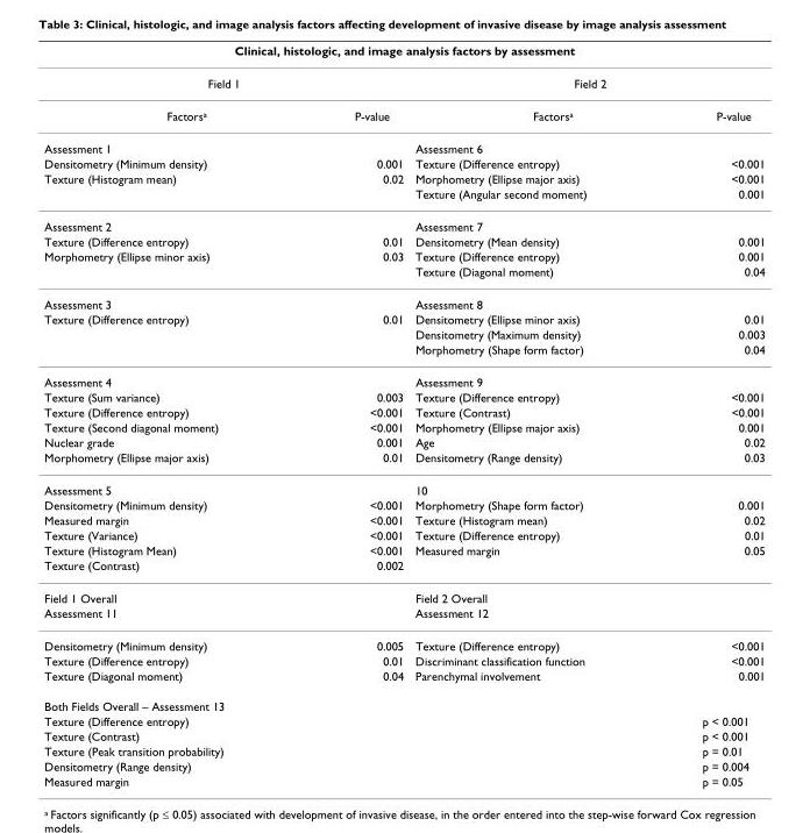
<table><thead><tr><td colspan="4">Clinical, histologic, and image analysis factors by assessment</td></tr><tr><td colspan="2">Field 1</td><td colspan="2">Field 2</td></tr><tr><td>Factors<sup>a</sup></td><td>P-value</td><td>Factors<sup>a</sup></td><td>P-value</td></tr></thead><tbody><tr><td>Assessment 1</td><td></td><td>Assessment 6</td><td></td></tr><tr><td>Densitometry (Minimum density)</td><td>0.001</td><td>Texture (Difference entropy)</td><td>&lt;0.001</td></tr><tr><td rowspan="2">Texture (Histogram mean)</td><td>0.02</td><td>Morphometry (Ellipse major axis)</td><td>&lt;0.001</td></tr><tr><td></td><td>Texture (Angular second moment)</td><td>0.001</td></tr><tr><td>Assessment 2</td><td></td><td>Assessment 7</td><td></td></tr><tr><td>Texture (Difference entropy)</td><td>0.01</td><td>Densitometry (Mean density)</td><td>0.001</td></tr><tr><td rowspan="2">Morphometry (Ellipse minor axis)</td><td>0.03</td><td>Texture (Difference entropy)</td><td>0.001</td></tr><tr><td></td><td>Texture (Diagonal moment)</td><td>0.04</td></tr><tr><td>Assessment 3</td><td></td><td>Assessment 8</td><td></td></tr><tr><td rowspan="3">Texture (Difference entropy)</td><td>0.01</td><td>Densitometry (Ellipse minor axis)</td><td>0.01</td></tr><tr><td></td><td>Densitometry (Maximum density)</td><td>0.003</td></tr><tr><td></td><td>Morphometry (Shape form factor)</td><td>0.04</td></tr><tr><td>Assessment 4</td><td></td><td>Assessment 9</td><td></td></tr><tr><td>Texture (Sum variance)</td><td>0.003</td><td>Texture (Difference entropy)</td><td>&lt;0.001</td></tr><tr><td>Texture (Difference entropy)</td><td>&lt;0.001</td><td>Texture (Contrast)</td><td>&lt;0.001</td></tr><tr><td>Texture (Second diagonal moment)</td><td>&lt;0.001</td><td>Morphometry (Ellipse major axis)</td><td>0.001</td></tr><tr><td>Nuclear grade</td><td>0.001</td><td>Age</td><td>0.02</td></tr><tr><td>Morphometry (Ellipse major axis)</td><td>0.01</td><td>Densitometry (Range density)</td><td>0.03</td></tr><tr><td>Assessment 5</td><td></td><td>10</td><td></td></tr><tr><td>Densitometry (Minimum density)</td><td>&lt;0.001</td><td>Morphometry (Shape form factor)</td><td>0.001</td></tr><tr><td>Measured margin</td><td>&lt;0.001</td><td>Texture (Histogram mean)</td><td>0.02</td></tr><tr><td>Texture (Variance)</td><td>&lt;0.001</td><td>Texture (Difference entropy)</td><td>0.01</td></tr><tr><td>Texture (Histogram Mean)</td><td>&lt;0.001</td><td>Measured margin</td><td>0.05</td></tr><tr><td>Texture (Contrast)</td><td>0.002</td><td></td><td></td></tr><tr><td>Field 1 Overall</td><td></td><td>Field 2 Overall</td><td></td></tr><tr><td>Assessment 11</td><td></td><td>Assessment 12</td><td></td></tr><tr><td>Densitometry (Minimum density)</td><td>0.005</td><td>Texture (Difference entropy)</td><td>&lt;0.001</td></tr><tr><td>Texture (Difference entropy)</td><td>0.01</td><td>Discriminant classification function</td><td>&lt;0.001</td></tr><tr><td>Texture (Diagonal moment)</td><td>0.04</td><td>Parenchymal involvement</td><td>0.001</td></tr><tr><td colspan="4">Both Fields Overall – Assessment 13</td></tr><tr><td>Texture (Difference entropy)</td><td></td><td></td><td>p &lt; 0.001</td></tr><tr><td>Texture (Contrast)</td><td></td><td></td><td>p &lt; 0.001</td></tr><tr><td>Texture (Peak transition probability)</td><td></td><td></td><td>p = 0.01</td></tr><tr><td>Densitometry (Range density)</td><td></td><td></td><td>p = 0.004</td></tr><tr><td>Measured margin</td><td></td><td></td><td>p = 0.05</td></tr></tbody></table>